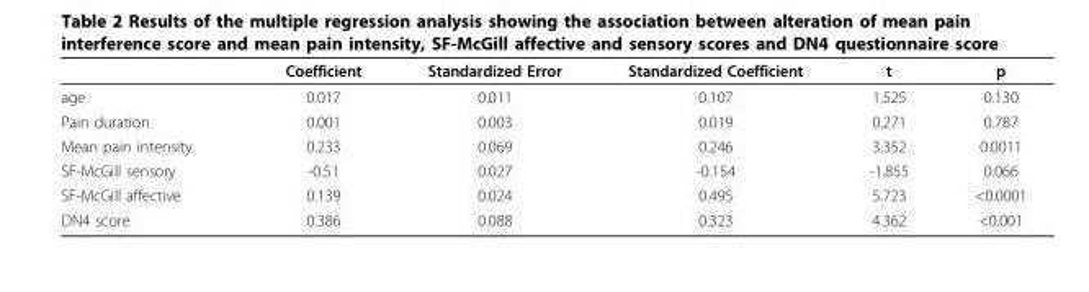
<table><thead><tr><td></td><td>Coefficient</td><td>Standardized Error</td><td>Standardized Coefficient</td><td>t</td><td>p</td></tr></thead><tbody><tr><td>age</td><td>0.017</td><td>0.011</td><td>0.107</td><td>1.525</td><td>0.130</td></tr><tr><td>Pain duration</td><td>0.001</td><td>0.003</td><td>0.019</td><td>0.271</td><td>0.787</td></tr><tr><td>Mean pain intensity</td><td>0.233</td><td>0.069</td><td>0.246</td><td>3.352</td><td>0.0011</td></tr><tr><td>SF-McGill sensory</td><td>-0.51</td><td>0.027</td><td>-0.154</td><td>-1.855</td><td>0.066</td></tr><tr><td>SF-McGill affective</td><td>0.139</td><td>0.024</td><td>0.495</td><td>5.723</td><td>&lt;0.0001</td></tr><tr><td>DN4 score</td><td>0.386</td><td>0.088</td><td>0.323</td><td>4.362</td><td>&lt;0.001</td></tr></tbody></table>